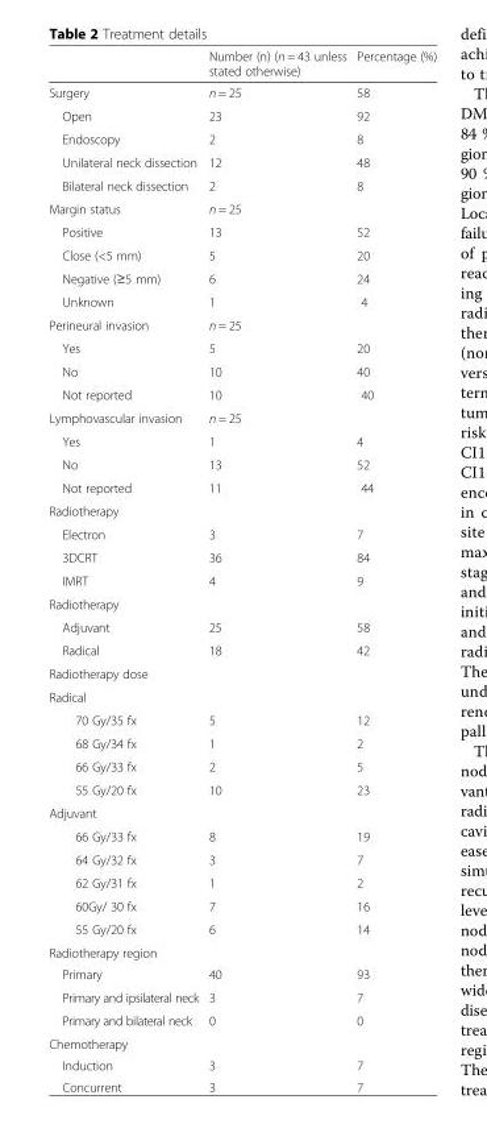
<table><thead><tr><td></td><td>Number (n) (n = 43 unless stated otherwise)</td><td>Percentage (%)</td></tr></thead><tbody><tr><td>Surgery</td><td>n = 25</td><td>58</td></tr><tr><td>Open</td><td>23</td><td>92</td></tr><tr><td>Endoscopy</td><td>2</td><td>8</td></tr><tr><td>Unilateral neck dissection</td><td>12</td><td>48</td></tr><tr><td>Bilateral neck dissection</td><td>2</td><td>8</td></tr><tr><td>Margin status</td><td>n = 25</td><td></td></tr><tr><td>Positive</td><td>13</td><td>52</td></tr><tr><td>Close (&lt;5 mm)</td><td>5</td><td>20</td></tr><tr><td>Negative (≥5 mm)</td><td>6</td><td>24</td></tr><tr><td>Unknown</td><td>1</td><td>4</td></tr><tr><td>Perineural invasion</td><td>n = 25</td><td></td></tr><tr><td>Yes</td><td>5</td><td>20</td></tr><tr><td>No</td><td>10</td><td>40</td></tr><tr><td>Not reported</td><td>10</td><td>40</td></tr><tr><td>Lymphovascular invasion</td><td>n = 25</td><td></td></tr><tr><td>Yes</td><td>1</td><td>4</td></tr><tr><td>No</td><td>13</td><td>52</td></tr><tr><td>Not reported</td><td>11</td><td>44</td></tr><tr><td colspan="3">Radiotherapy</td></tr><tr><td>Electron</td><td>3</td><td>7</td></tr><tr><td>3DCRT</td><td>36</td><td>84</td></tr><tr><td>IMRT</td><td>4</td><td>9</td></tr><tr><td colspan="3">Radiotherapy</td></tr><tr><td>Adjuvant</td><td>25</td><td>58</td></tr><tr><td>Radical</td><td>18</td><td>42</td></tr><tr><td colspan="3">Radiotherapy dose</td></tr><tr><td colspan="3">Radical</td></tr><tr><td>70 Gy/35 fx</td><td>5</td><td>12</td></tr><tr><td>68 Gy/34 fx</td><td>1</td><td>2</td></tr><tr><td>66 Gy/33 fx</td><td>2</td><td>5</td></tr><tr><td>55 Gy/20 fx</td><td>10</td><td>23</td></tr><tr><td colspan="3">Adjuvant</td></tr><tr><td>66 Gy/33 fx</td><td>8</td><td>19</td></tr><tr><td>64 Gy/32 fx</td><td>3</td><td>7</td></tr><tr><td>62 Gy/31 fx</td><td>1</td><td>2</td></tr><tr><td>60Gy/ 30 fx</td><td>7</td><td>16</td></tr><tr><td>55 Gy/20 fx</td><td>6</td><td>14</td></tr><tr><td colspan="3">Radiotherapy region</td></tr><tr><td>Primary</td><td>40</td><td>93</td></tr><tr><td>Primary and ipsilateral neck</td><td>3</td><td>7</td></tr><tr><td>Primary and bilateral neck</td><td>0</td><td>0</td></tr><tr><td colspan="3">Chemotherapy</td></tr><tr><td>Induction</td><td>3</td><td>7</td></tr><tr><td>Concurrent</td><td>3</td><td>7</td></tr></tbody></table>